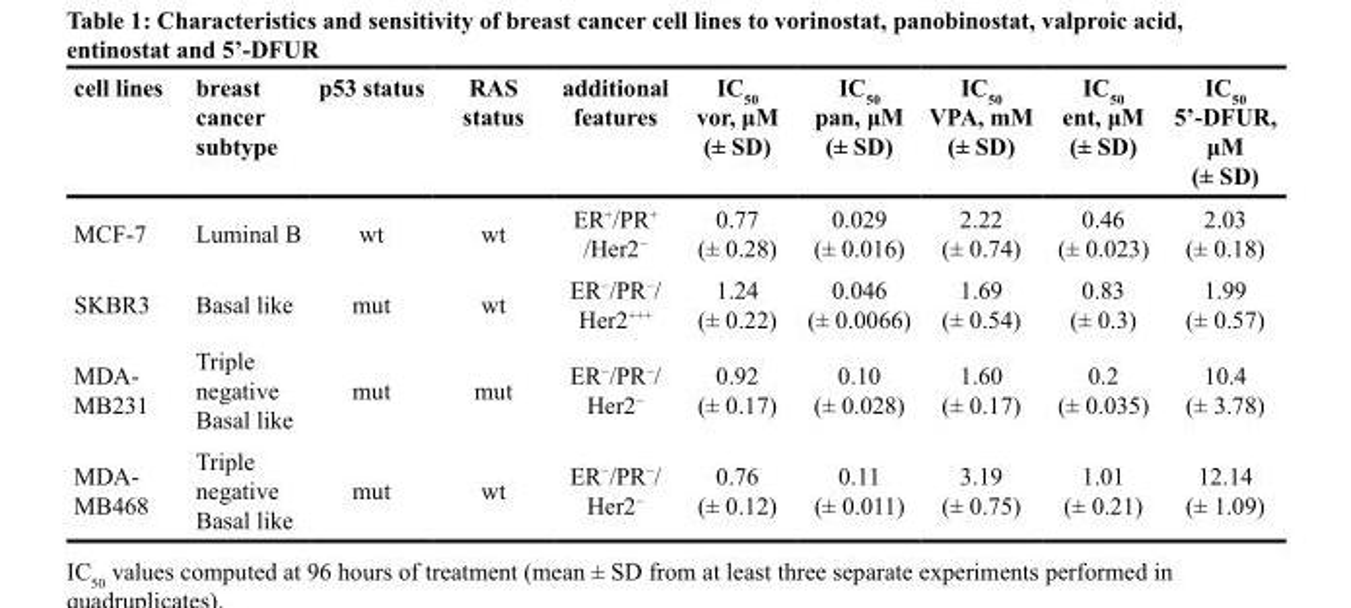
<table><thead><tr><td>cell lines</td><td>breast cancer subtype</td><td>p53 status</td><td>RAS status</td><td>additional features</td><td>IC<sub>50</sub> vor, μM (± SD)</td><td>IC<sub>50</sub> pan, μM (± SD)</td><td>IC<sub>50</sub> VPA, mM (± SD)</td><td>IC<sub>50</sub> ent, μM (± SD)</td><td>IC<sub>50</sub> 5’-DFUR, μM (± SD)</td></tr></thead><tbody><tr><td>MCF-7</td><td>Luminal B</td><td>wt</td><td>wt</td><td>ER<sup>+</sup>/PR<sup>+</sup> /Her2<sup>−</sup></td><td>0.77 (± 0.28)</td><td>0.029 (± 0.016)</td><td>2.22 (± 0.74)</td><td>0.46 (± 0.023)</td><td>2.03 (± 0.18)</td></tr><tr><td>SKBR3</td><td>Basal like</td><td>mut</td><td>wt</td><td>ER<sup>−</sup>/PR<sup>−</sup>/ Her2<sup>+++</sup></td><td>1.24 (± 0.22)</td><td>0.046 (± 0.0066)</td><td>1.69 (± 0.54)</td><td>0.83 (± 0.3)</td><td>1.99 (± 0.57)</td></tr><tr><td>MDA- MB231</td><td>Triple negative Basal like</td><td>mut</td><td>mut</td><td>ER<sup>−</sup>/PR<sup>−</sup>/ Her2<sup>−</sup></td><td>0.92 (± 0.17)</td><td>0.10 (± 0.028)</td><td>1.60 (± 0.17)</td><td>0.2 (± 0.035)</td><td>10.4 (± 3.78)</td></tr><tr><td>MDA- MB468</td><td>Triple negative Basal like</td><td>mut</td><td>wt</td><td>ER<sup>−</sup>/PR<sup>−</sup>/ Her2<sup>−</sup></td><td>0.76 (± 0.12)</td><td>0.11 (± 0.011)</td><td>3.19 (± 0.75)</td><td>1.01 (± 0.21)</td><td>12.14 (± 1.09)</td></tr></tbody></table>